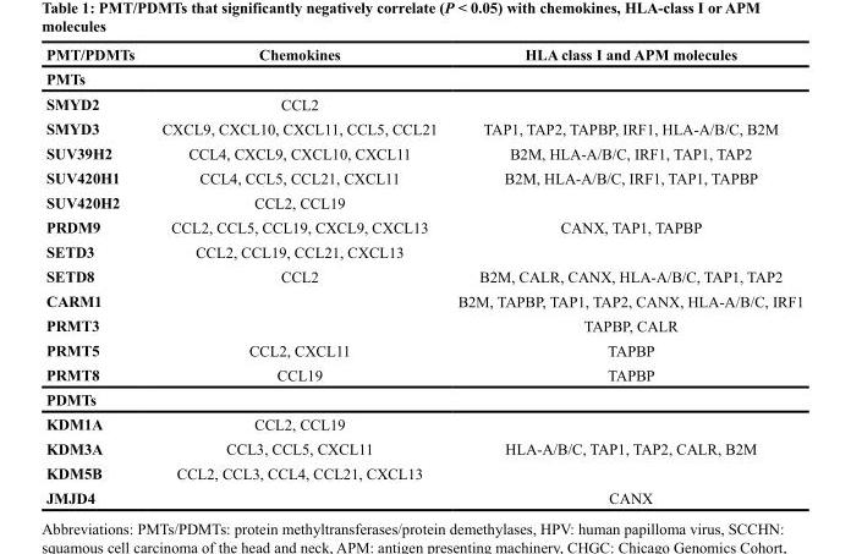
<table><thead><tr><td>PMT/PDMTs</td><td>Chemokines</td><td>HLA class I and APM molecules</td></tr></thead><tbody><tr><td colspan="3">PMTs</td></tr><tr><td>SMYD2</td><td>CCL2</td><td></td></tr><tr><td>SMYD3</td><td>CXCL9, CXCL10, CXCL11, CCL5, CCL21</td><td>TAP1, TAP2, TAPBP, IRF1, HLA-A/B/C, B2M</td></tr><tr><td>SUV39H2</td><td>CCL4, CXCL9, CXCL10, CXCL11</td><td>B2M, HLA-A/B/C, IRF1, TAP1, TAP2</td></tr><tr><td>SUV420H1</td><td>CCL4, CCL5, CCL21, CXCL11</td><td>B2M, HLA-A/B/C, IRF1, TAP1, TAPBP</td></tr><tr><td>SUV420H2</td><td>CCL2, CCL19</td><td></td></tr><tr><td>PRDM9</td><td>CCL2, CCL5, CCL19, CXCL9, CXCL13</td><td>CANX, TAP1, TAPBP</td></tr><tr><td>SETD3</td><td>CCL2, CCL19, CCL21, CXCL13</td><td></td></tr><tr><td>SETD8</td><td>CCL2</td><td>B2M, CALR, CANX, HLA-A/B/C, TAP1, TAP2</td></tr><tr><td>CARM1</td><td></td><td>B2M, TAPBP, TAP1, TAP2, CANX, HLA-A/B/C, IRF1</td></tr><tr><td>PRMT3</td><td></td><td>TAPBP, CALR</td></tr><tr><td>PRMT5</td><td>CCL2, CXCL11</td><td>TAPBP</td></tr><tr><td>PRMT8</td><td>CCL19</td><td>TAPBP</td></tr><tr><td colspan="3">PDMTs</td></tr><tr><td>KDM1A</td><td>CCL2, CCL19</td><td></td></tr><tr><td>KDM3A</td><td>CCL3, CCL5, CXCL11</td><td>HLA-A/B/C, TAP1, TAP2, CALR, B2M</td></tr><tr><td>KDM5B</td><td>CCL2, CCL3, CCL4, CCL21, CXCL13</td><td></td></tr><tr><td>JMJD4</td><td></td><td>CANX</td></tr></tbody></table>